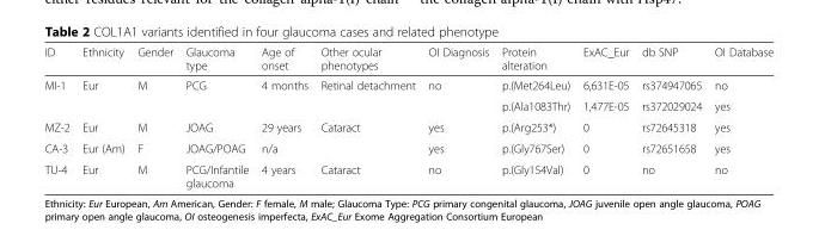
<table><thead><tr><td>ID</td><td>Ethnicity</td><td>Gender</td><td>Glaucoma type</td><td>Age of onset</td><td>Other ocular phenotypes</td><td>OI Diagnosis</td><td>Protein alteration</td><td>ExAC_Eur</td><td>db SNP</td><td>OI Database</td></tr></thead><tbody><tr><td rowspan="2">MI-1</td><td>Eur</td><td>M</td><td>PCG</td><td>4 months</td><td>Retinal detachment</td><td>no</td><td>p.(Met264Leu)</td><td>6,631E-05</td><td>rs374947065</td><td>no</td></tr><tr><td></td><td></td><td></td><td></td><td></td><td></td><td>p.(Ala1083Thr)</td><td>1,477E-05</td><td>rs372029024</td><td>yes</td></tr><tr><td>MZ-2</td><td>Eur</td><td>M</td><td>JOAG</td><td>29 years</td><td>Cataract</td><td>yes</td><td>p.(Arg253*)</td><td>0</td><td>rs72645318</td><td>yes</td></tr><tr><td>CA-3</td><td>Eur (Am)</td><td>F</td><td>JOAG/POAG</td><td>n/a</td><td></td><td>yes</td><td>p.(Gly767Ser)</td><td>0</td><td>rs72651658</td><td>yes</td></tr><tr><td>TU-4</td><td>Eur</td><td>M</td><td>PCG/Infantile glaucoma</td><td>4 years</td><td>Cataract</td><td>no</td><td>p.(Gly154Val)</td><td>0</td><td>no</td><td>no</td></tr></tbody></table>